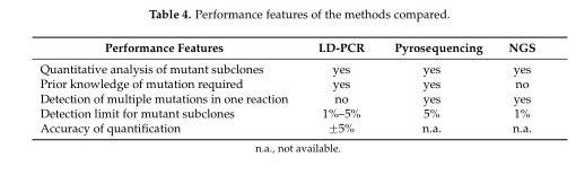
<table><thead><tr><td>Performance Features</td><td>LD-PCR</td><td>Pyrosequencing</td><td>NGS</td></tr></thead><tbody><tr><td>Quantitative analysis of mutant subclones</td><td>yes</td><td>yes</td><td>yes</td></tr><tr><td>Prior knowledge of mutation required</td><td>yes</td><td>yes</td><td>no</td></tr><tr><td>Detection of multiple mutations in one reaction</td><td>no</td><td>yes</td><td>yes</td></tr><tr><td>Detection limit for mutant subclones</td><td>1%–5%</td><td>5%</td><td>1%</td></tr><tr><td>Accuracy of quantification</td><td>˘5%</td><td>n.a.</td><td>n.a.</td></tr></tbody></table>